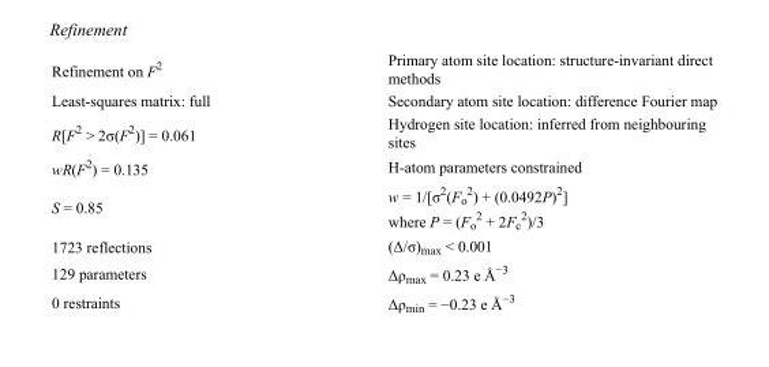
<table><tbody><tr><td>Refinement on F<sup>2</sup></td><td>Primary atom site location: structure-invariant direct methods</td></tr><tr><td>Least-squares matrix: full</td><td>Secondary atom site location: difference Fourier map</td></tr><tr><td>R[F<sup>2</sup> &gt; 2σ(F<sup>2</sup>)] = 0.061</td><td>Hydrogen site location: inferred from neighbouring sites</td></tr><tr><td>wR(F<sup>2</sup>) = 0.135</td><td>H-atom parameters constrained</td></tr><tr><td>S = 0.85</td><td>w = 1/[σ<sup>2</sup>(F<sub>o</sub> <sup>2</sup>) + (0.0492P)<sup>2</sup>] where P = (F<sub>o</sub> <sup>2</sup> + 2F<sub>c</sub> <sup>2</sup>)/3</td></tr><tr><td>1723 reflections</td><td>(Δ/σ)<sub>max</sub> &lt; 0.001</td></tr><tr><td>129 parameters</td><td>Δρ<sub>max</sub> = 0.23 e Å<sup>−3</sup></td></tr><tr><td>0 restraints</td><td>Δρ<sub>min</sub> = −0.23 e Å<sup>−3</sup></td></tr></tbody></table>